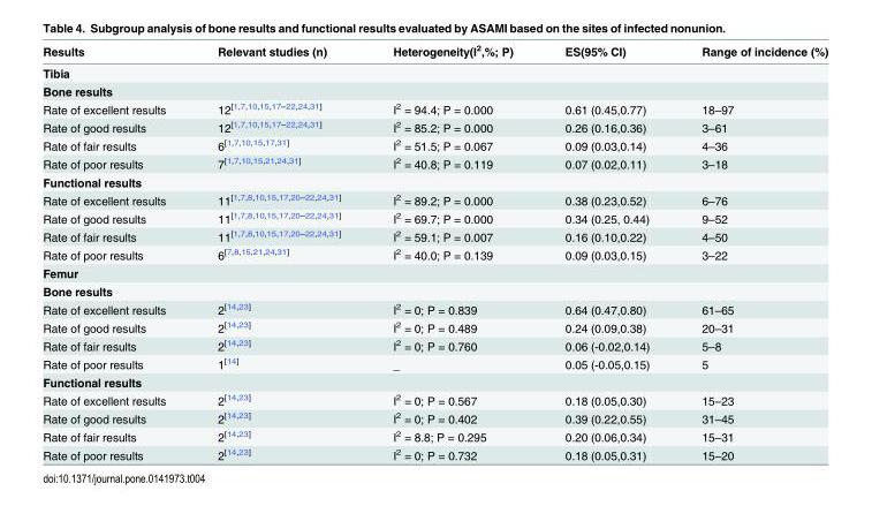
<table><thead><tr><td>Results</td><td>Relevant studies (n)</td><td>Heterogeneity(I<sup>2</sup>,%; P)</td><td>ES(95% CI)</td><td>Range of incidence (%)</td></tr></thead><tbody><tr><td colspan="5">Tibia</td></tr><tr><td colspan="5">Bone results</td></tr><tr><td>Rate of excellent results</td><td>12<sup>[1,7,10,15,17–22,24,31]</sup></td><td>I<sup>2</sup> = 94.4; P = 0.000</td><td>0.61 (0.45,0.77)</td><td>18–97</td></tr><tr><td>Rate of good results</td><td>12<sup>[1,7,10,15,17–22,24,31]</sup></td><td>I<sup>2</sup> = 85.2; P = 0.000</td><td>0.26 (0.16,0.36)</td><td>3–61</td></tr><tr><td>Rate of fair results</td><td>6<sup>[1,7,10,15,17,31]</sup></td><td>I<sup>2</sup> = 51.5; P = 0.067</td><td>0.09 (0.03,0.14)</td><td>4–36</td></tr><tr><td>Rate of poor results</td><td>7<sup>[1,7,10,15,21,24,31]</sup></td><td>I<sup>2</sup> = 40.8; P = 0.119</td><td>0.07 (0.02,0.11)</td><td>3–18</td></tr><tr><td colspan="5">Functional results</td></tr><tr><td>Rate of excellent results</td><td>11<sup>[1,7,8,10,15,17,20–22,24,31]</sup></td><td>I<sup>2</sup> = 89.2; P = 0.000</td><td>0.38 (0.23,0.52)</td><td>6–76</td></tr><tr><td>Rate of good results</td><td>11<sup>[1,7,8,10,15,17,20–22,24,31]</sup></td><td>I<sup>2</sup> = 69.7; P = 0.000</td><td>0.34 (0.25, 0.44)</td><td>9–52</td></tr><tr><td>Rate of fair results</td><td>11<sup>[1,7,8,10,15,17,20–22,24,31]</sup></td><td>I<sup>2</sup> = 59.1; P = 0.007</td><td>0.16 (0.10,0.22)</td><td>4–50</td></tr><tr><td>Rate of poor results</td><td>6<sup>[7,8,15,21,24,31]</sup></td><td>I<sup>2</sup> = 40.0; P = 0.139</td><td>0.09 (0.03,0.15)</td><td>3–22</td></tr><tr><td colspan="5">Femur</td></tr><tr><td colspan="5">Bone results</td></tr><tr><td>Rate of excellent results</td><td>2<sup>[14,23]</sup></td><td>I<sup>2</sup> = 0; P = 0.839</td><td>0.64 (0.47,0.80)</td><td>61–65</td></tr><tr><td>Rate of good results</td><td>2<sup>[14,23]</sup></td><td>I<sup>2</sup> = 0; P = 0.489</td><td>0.24 (0.09,0.38)</td><td>20–31</td></tr><tr><td>Rate of fair results</td><td>2<sup>[14,23]</sup></td><td>I<sup>2</sup> = 0; P = 0.760</td><td>0.06 (-0.02,0.14)</td><td>5–8</td></tr><tr><td>Rate of poor results</td><td>1<sup>[14]</sup></td><td>_</td><td>0.05 (-0.05,0.15)</td><td>5</td></tr><tr><td colspan="5">Functional results</td></tr><tr><td>Rate of excellent results</td><td>2<sup>[14,23]</sup></td><td>I<sup>2</sup> = 0; P = 0.567</td><td>0.18 (0.05,0.30)</td><td>15–23</td></tr><tr><td>Rate of good results</td><td>2<sup>[14,23]</sup></td><td>I<sup>2</sup> = 0; P = 0.402</td><td>0.39 (0.22,0.55)</td><td>31–45</td></tr><tr><td>Rate of fair results</td><td>2<sup>[14,23]</sup></td><td>I<sup>2</sup> = 8.8; P = 0.295</td><td>0.20 (0.06,0.34)</td><td>15–31</td></tr><tr><td>Rate of poor results</td><td>2<sup>[14,23]</sup></td><td>I<sup>2</sup> = 0; P = 0.732</td><td>0.18 (0.05,0.31)</td><td>15–20</td></tr></tbody></table>